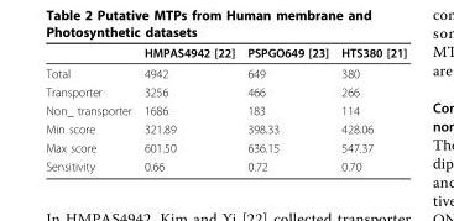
<table><thead><tr><td></td><td>HMPAS4942 [22]</td><td>PSPGO649 [23]</td><td>HTS380 [21]</td></tr></thead><tbody><tr><td>Total</td><td>4942</td><td>649</td><td>380</td></tr><tr><td>Transporter</td><td>3256</td><td>466</td><td>266</td></tr><tr><td>Non_ transporter</td><td>1686</td><td>183</td><td>114</td></tr><tr><td>Min score</td><td>321.89</td><td>398.33</td><td>428.06</td></tr><tr><td>Max score</td><td>601.50</td><td>636.15</td><td>547.37</td></tr><tr><td>Sensitivity</td><td>0.66</td><td>0.72</td><td>0.70</td></tr></tbody></table>